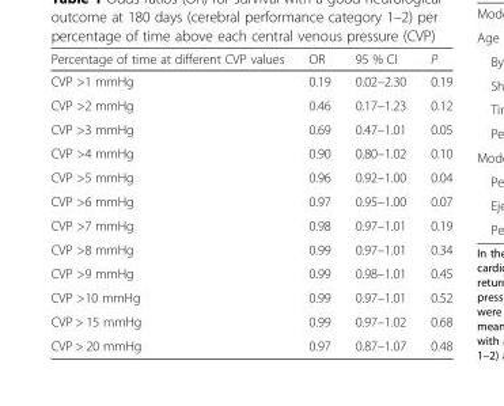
<table><thead><tr><td>Percentage of time at different CVP values</td><td>OR</td><td>95 % CI</td><td>P</td></tr></thead><tbody><tr><td>CVP &gt;1 mmHg</td><td>0.19</td><td>0.02–2.30</td><td>0.19</td></tr><tr><td>CVP &gt;2 mmHg</td><td>0.46</td><td>0.17–1.23</td><td>0.12</td></tr><tr><td>CVP &gt;3 mmHg</td><td>0.69</td><td>0.47–1.01</td><td>0.05</td></tr><tr><td>CVP &gt;4 mmHg</td><td>0.90</td><td>0.80–1.02</td><td>0.10</td></tr><tr><td>CVP &gt;5 mmHg</td><td>0.96</td><td>0.92–1.00</td><td>0.04</td></tr><tr><td>CVP &gt;6 mmHg</td><td>0.97</td><td>0.95–1.00</td><td>0.07</td></tr><tr><td>CVP &gt;7 mmHg</td><td>0.98</td><td>0.97–1.01</td><td>0.19</td></tr><tr><td>CVP &gt;8 mmHg</td><td>0.99</td><td>0.97–1.01</td><td>0.34</td></tr><tr><td>CVP &gt;9 mmHg</td><td>0.99</td><td>0.98–1.01</td><td>0.45</td></tr><tr><td>CVP &gt;10 mmHg</td><td>0.99</td><td>0.97–1.01</td><td>0.52</td></tr><tr><td>CVP &gt; 15 mmHg</td><td>0.99</td><td>0.97–1.02</td><td>0.68</td></tr><tr><td>CVP &gt; 20 mmHg</td><td>0.97</td><td>0.87–1.07</td><td>0.48</td></tr></tbody></table>